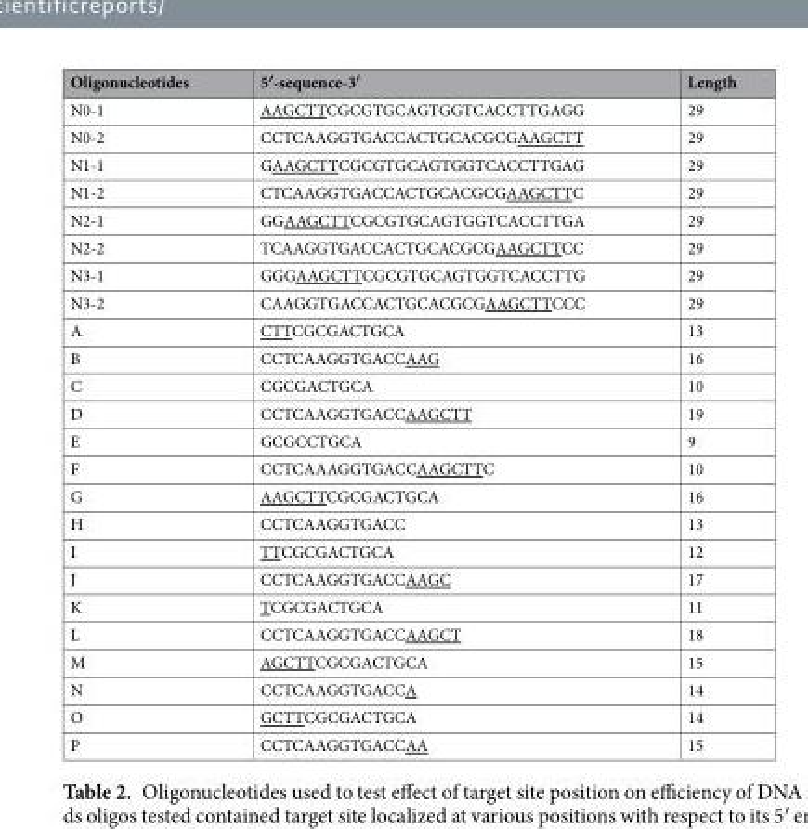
<table><thead><tr><td>Oligonucleotides</td><td>5′-sequence-3′</td><td>Length</td></tr></thead><tbody><tr><td>N0-1</td><td>AAGCTTCGCGTGCAGTGGTCACCTTGAGG</td><td>29</td></tr><tr><td>N0-2</td><td>CCTCAAGGTGACCACTGCACGCGAAGCTT</td><td>29</td></tr><tr><td>N1-1</td><td>GAAGCTTCGCGTGCAGTGGTCACCTTGAG</td><td>29</td></tr><tr><td>N1-2</td><td>CTCAAGGTGACCACTGCACGCGAAGCTTC</td><td>29</td></tr><tr><td>N2-1</td><td>GGAAGCTTCGCGTGCAGTGGTCACCTTGA</td><td>29</td></tr><tr><td>N2-2</td><td>TCAAGGTGACCACTGCACGCGAAGCTTCC</td><td>29</td></tr><tr><td>N3-1</td><td>GGGAAGCTTCGCGTGCAGTGGTCACCTTG</td><td>29</td></tr><tr><td>N3-2</td><td>CAAGGTGACCACTGCACGCGAAGCTTCCC</td><td>29</td></tr><tr><td>A</td><td>CTTCGCGACTGCA</td><td>13</td></tr><tr><td>B</td><td>CCTCAAGGTGACCAAG</td><td>16</td></tr><tr><td>C</td><td>CGCGACTGCA</td><td>10</td></tr><tr><td>D</td><td>CCTCAAGGTGACCAAGCTT</td><td>19</td></tr><tr><td>E</td><td>GCGCCTGCA</td><td>9</td></tr><tr><td>F</td><td>CCTCAAAGGTGACCAAGCTTC</td><td>10</td></tr><tr><td>G</td><td>AAGCTTCGCGACTGCA</td><td>16</td></tr><tr><td>H</td><td>CCTCAAGGTGACC</td><td>13</td></tr><tr><td>I</td><td>TTCGCGACTGCA</td><td>12</td></tr><tr><td>J</td><td>CCTCAAGGTGACCAAGC</td><td>17</td></tr><tr><td>K</td><td>TCGCGACTGCA</td><td>11</td></tr><tr><td>L</td><td>CCTCAAGGTGACCAAGCT</td><td>18</td></tr><tr><td>M</td><td>AGCTTCGCGACTGCA</td><td>15</td></tr><tr><td>N</td><td>CCTCAAGGTGACCA</td><td>14</td></tr><tr><td>O</td><td>GCTTCGCGACTGCA</td><td>14</td></tr><tr><td>P</td><td>CCTCAAGGTGACCAA</td><td>15</td></tr></tbody></table>